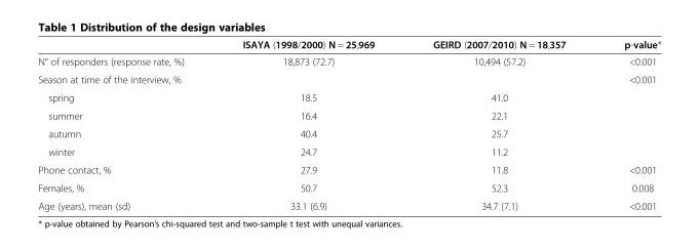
<table><thead><tr><td></td><td>ISAYA (1998/2000) N = 25,969</td><td>GEIRD (2007/2010) N = 18,357</td><td>p-value*</td></tr></thead><tbody><tr><td>N° of responders (response rate, %)</td><td>18,873 (72.7)</td><td>10,494 (57.2)</td><td>&lt;0.001</td></tr><tr><td>Season at time of the interview, %</td><td></td><td></td><td>&lt;0.001</td></tr><tr><td>spring</td><td>18.5</td><td>41.0</td><td></td></tr><tr><td>summer</td><td>16.4</td><td>22.1</td><td></td></tr><tr><td>autumn</td><td>40.4</td><td>25.7</td><td></td></tr><tr><td>winter</td><td>24.7</td><td>11.2</td><td></td></tr><tr><td>Phone contact, %</td><td>27.9</td><td>11.8</td><td>&lt;0.001</td></tr><tr><td>Females, %</td><td>50.7</td><td>52.3</td><td>0.008</td></tr><tr><td>Age (years), mean (sd)</td><td>33.1 (6.9)</td><td>34.7 (7.1)</td><td>&lt;0.001</td></tr></tbody></table>